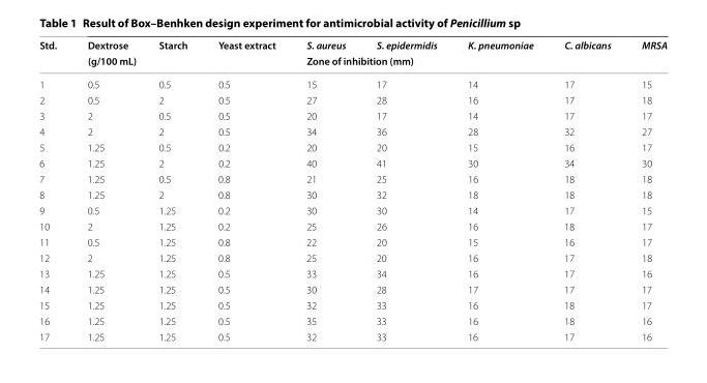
<table><thead><tr><td rowspan="2">Std.</td><td>Dextrose</td><td>Starch</td><td>Yeast extract</td><td>S. aureus</td><td>S. epidermidis</td><td>K. pneumoniae</td><td>C. albicans</td><td>MRSA</td></tr><tr><td colspan="3">(g/100 mL)</td><td colspan="5">Zone of inhibition (mm)</td></tr></thead><tbody><tr><td>1</td><td>0.5</td><td>0.5</td><td>0.5</td><td>15</td><td>17</td><td>14</td><td>17</td><td>15</td></tr><tr><td>2</td><td>0.5</td><td>2</td><td>0.5</td><td>27</td><td>28</td><td>16</td><td>17</td><td>18</td></tr><tr><td>3</td><td>2</td><td>0.5</td><td>0.5</td><td>20</td><td>17</td><td>14</td><td>17</td><td>17</td></tr><tr><td>4</td><td>2</td><td>2</td><td>0.5</td><td>34</td><td>36</td><td>28</td><td>32</td><td>27</td></tr><tr><td>5</td><td>1.25</td><td>0.5</td><td>0.2</td><td>20</td><td>20</td><td>15</td><td>16</td><td>17</td></tr><tr><td>6</td><td>1.25</td><td>2</td><td>0.2</td><td>40</td><td>41</td><td>30</td><td>34</td><td>30</td></tr><tr><td>7</td><td>1.25</td><td>0.5</td><td>0.8</td><td>21</td><td>25</td><td>16</td><td>18</td><td>18</td></tr><tr><td>8</td><td>1.25</td><td>2</td><td>0.8</td><td>30</td><td>32</td><td>18</td><td>18</td><td>18</td></tr><tr><td>9</td><td>0.5</td><td>1.25</td><td>0.2</td><td>30</td><td>30</td><td>14</td><td>17</td><td>15</td></tr><tr><td>10</td><td>2</td><td>1.25</td><td>0.2</td><td>25</td><td>26</td><td>16</td><td>18</td><td>17</td></tr><tr><td>11</td><td>0.5</td><td>1.25</td><td>0.8</td><td>22</td><td>20</td><td>15</td><td>16</td><td>17</td></tr><tr><td>12</td><td>2</td><td>1.25</td><td>0.8</td><td>25</td><td>20</td><td>16</td><td>17</td><td>18</td></tr><tr><td>13</td><td>1.25</td><td>1.25</td><td>0.5</td><td>33</td><td>34</td><td>16</td><td>17</td><td>16</td></tr><tr><td>14</td><td>1.25</td><td>1.25</td><td>0.5</td><td>30</td><td>28</td><td>17</td><td>17</td><td>17</td></tr><tr><td>15</td><td>1.25</td><td>1.25</td><td>0.5</td><td>32</td><td>33</td><td>16</td><td>18</td><td>17</td></tr><tr><td>16</td><td>1.25</td><td>1.25</td><td>0.5</td><td>35</td><td>33</td><td>16</td><td>18</td><td>16</td></tr><tr><td>17</td><td>1.25</td><td>1.25</td><td>0.5</td><td>32</td><td>33</td><td>16</td><td>17</td><td>16</td></tr></tbody></table>